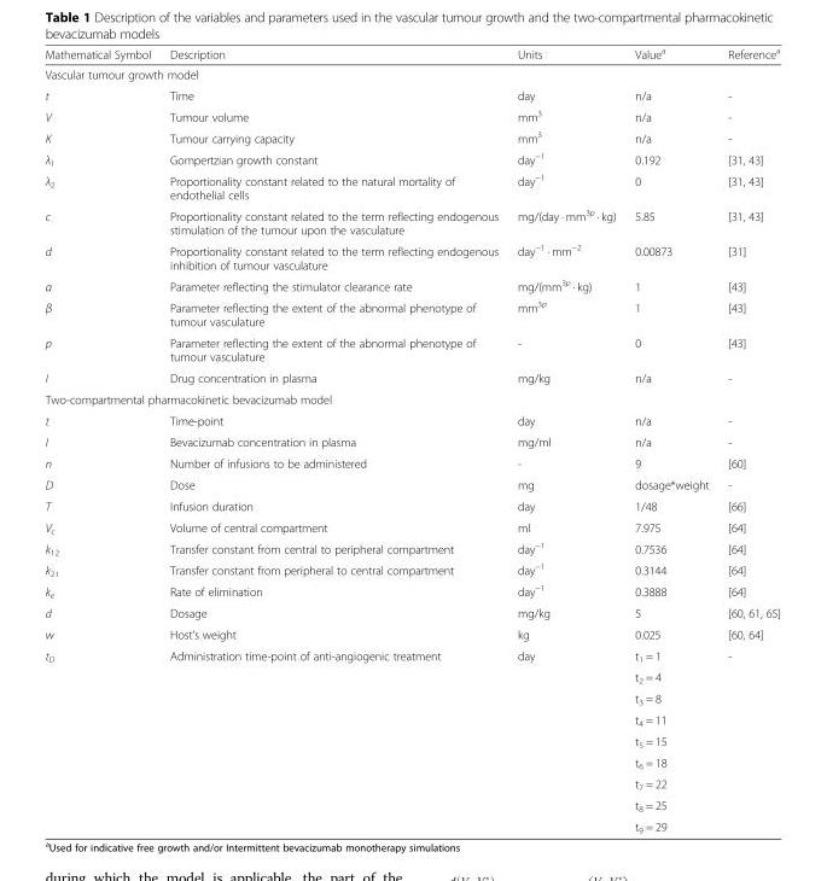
<table><thead><tr><td>Mathematical Symbol</td><td>Description</td><td>Units</td><td>Value<sup>a</sup></td><td>Reference<sup>a</sup></td></tr></thead><tbody><tr><td colspan="5">Vascular tumour growth model</td></tr><tr><td>t</td><td>Time</td><td>day</td><td>n/a</td><td>-</td></tr><tr><td>V</td><td>Tumour volume</td><td>mm<sup>3</sup></td><td>n/a</td><td>-</td></tr><tr><td>K</td><td>Tumour carrying capacity</td><td>mm<sup>3</sup></td><td>n/a</td><td>-</td></tr><tr><td>λ<sub>1</sub></td><td>Gompertzian growth constant</td><td>day<sup>−1</sup></td><td>0.192</td><td>[31, 43]</td></tr><tr><td>λ<sub>2</sub></td><td>Proportionality constant related to the natural mortality of endothelial cells</td><td>day<sup>−1</sup></td><td>0</td><td>[31, 43]</td></tr><tr><td>c</td><td>Proportionality constant related to the term reflecting endogenous stimulation of the tumour upon the vasculature</td><td>mg/(day · mm<sup>3p</sup> · kg)</td><td>5.85</td><td>[31, 43]</td></tr><tr><td>d</td><td>Proportionality constant related to the term reflecting endogenous inhibition of tumour vasculature</td><td>day<sup>−1</sup> · mm<sup>−2</sup></td><td>0.00873</td><td>[31]</td></tr><tr><td>α</td><td>Parameter reflecting the stimulator clearance rate</td><td>mg/(mm<sup>3p</sup> · kg)</td><td>1</td><td>[43]</td></tr><tr><td>β</td><td>Parameter reflecting the extent of the abnormal phenotype of tumour vasculature</td><td>mm<sup>3p</sup></td><td>1</td><td>[43]</td></tr><tr><td>p</td><td>Parameter reflecting the extent of the abnormal phenotype of tumour vasculature</td><td>-</td><td>0</td><td>[43]</td></tr><tr><td>I</td><td>Drug concentration in plasma</td><td>mg/kg</td><td>n/a</td><td>-</td></tr><tr><td colspan="5">Two-compartmental pharmacokinetic bevacizumab model</td></tr><tr><td>t</td><td>Time-point</td><td>day</td><td>n/a</td><td>-</td></tr><tr><td>I</td><td>Bevacizumab concentration in plasma</td><td>mg/ml</td><td>n/a</td><td>-</td></tr><tr><td>n</td><td>Number of infusions to be administered</td><td>-</td><td>9</td><td>[60]</td></tr><tr><td>D</td><td>Dose</td><td>mg</td><td>dosage*weight</td><td>-</td></tr><tr><td>T</td><td>Infusion duration</td><td>day</td><td>1/48</td><td>[66]</td></tr><tr><td>V<sub>c</sub></td><td>Volume of central compartment</td><td>ml</td><td>7.975</td><td>[64]</td></tr><tr><td>k<sub>12</sub></td><td>Transfer constant from central to peripheral compartment</td><td>day<sup>−1</sup></td><td>0.7536</td><td>[64]</td></tr><tr><td>k<sub>21</sub></td><td>Transfer constant from peripheral to central compartment</td><td>day<sup>−1</sup></td><td>0.3144</td><td>[64]</td></tr><tr><td>k<sub>e</sub></td><td>Rate of elimination</td><td>day<sup>−1</sup></td><td>0.3888</td><td>[64]</td></tr><tr><td>d</td><td>Dosage</td><td>mg/kg</td><td>5</td><td>[60, 61, 65]</td></tr><tr><td>w</td><td>Host’s weight</td><td>kg</td><td>0.025</td><td>[60, 64]</td></tr><tr><td rowspan="9">t<sub>D</sub></td><td rowspan="9">Administration time-point of anti-angiogenic treatment</td><td rowspan="9">day</td><td>t<sub>1</sub> = 1</td><td rowspan="9">-</td></tr><tr><td>t<sub>2</sub> = 4</td></tr><tr><td>t<sub>3</sub> = 8</td></tr><tr><td>t<sub>4</sub> = 11</td></tr><tr><td>t<sub>5</sub> = 15</td></tr><tr><td>t<sub>6</sub> = 18</td></tr><tr><td>t<sub>7</sub> = 22</td></tr><tr><td>t<sub>8</sub> = 25</td></tr><tr><td>t<sub>9</sub> = 29</td></tr></tbody></table>